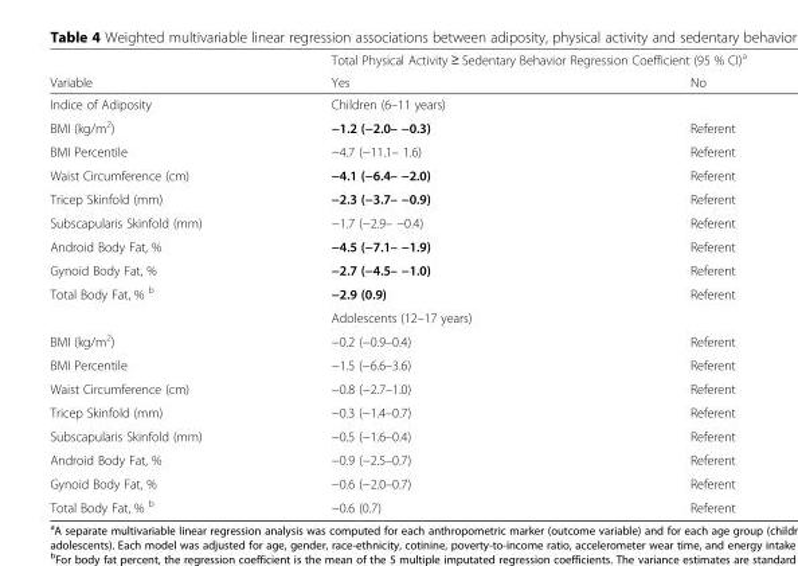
<table><thead><tr><td rowspan="2">Variable</td><td colspan="2">Total Physical Activity ≥ Sedentary Behavior Regression Coefficient (95 % CI)<sup>a</sup></td></tr><tr><td>Yes</td><td>No</td></tr></thead><tbody><tr><td>Indice of Adiposity</td><td colspan="2">Children (6–11 years)</td></tr><tr><td>BMI (kg/m<sup>2</sup>)</td><td>−1.2 (−2.0– −0.3)</td><td>Referent</td></tr><tr><td>BMI Percentile</td><td>−4.7 (−11.1– 1.6)</td><td>Referent</td></tr><tr><td>Waist Circumference (cm)</td><td>−4.1 (−6.4– −2.0)</td><td>Referent</td></tr><tr><td>Tricep Skinfold (mm)</td><td>−2.3 (−3.7– −0.9)</td><td>Referent</td></tr><tr><td>Subscapularis Skinfold (mm)</td><td>−1.7 (−2.9– −0.4)</td><td>Referent</td></tr><tr><td>Android Body Fat, %</td><td>−4.5 (−7.1– −1.9)</td><td>Referent</td></tr><tr><td>Gynoid Body Fat, %</td><td>−2.7 (−4.5– −1.0)</td><td>Referent</td></tr><tr><td rowspan="2">Total Body Fat, % <sup>b</sup></td><td>−2.9 (0.9)</td><td>Referent</td></tr><tr><td colspan="2">Adolescents (12–17 years)</td></tr><tr><td>BMI (kg/m<sup>2</sup>)</td><td>−0.2 (−0.9–0.4)</td><td>Referent</td></tr><tr><td>BMI Percentile</td><td>−1.5 (−6.6–3.6)</td><td>Referent</td></tr><tr><td>Waist Circumference (cm)</td><td>−0.8 (−2.7–1.0)</td><td>Referent</td></tr><tr><td>Tricep Skinfold (mm)</td><td>−0.3 (−1.4–0.7)</td><td>Referent</td></tr><tr><td>Subscapularis Skinfold (mm)</td><td>−0.5 (−1.6–0.4)</td><td>Referent</td></tr><tr><td>Android Body Fat, %</td><td>−0.9 (−2.5–0.7)</td><td>Referent</td></tr><tr><td>Gynoid Body Fat, %</td><td>−0.6 (−2.0–0.7)</td><td>Referent</td></tr><tr><td>Total Body Fat, % <sup>b</sup></td><td>−0.6 (0.7)</td><td>Referent</td></tr></tbody></table>